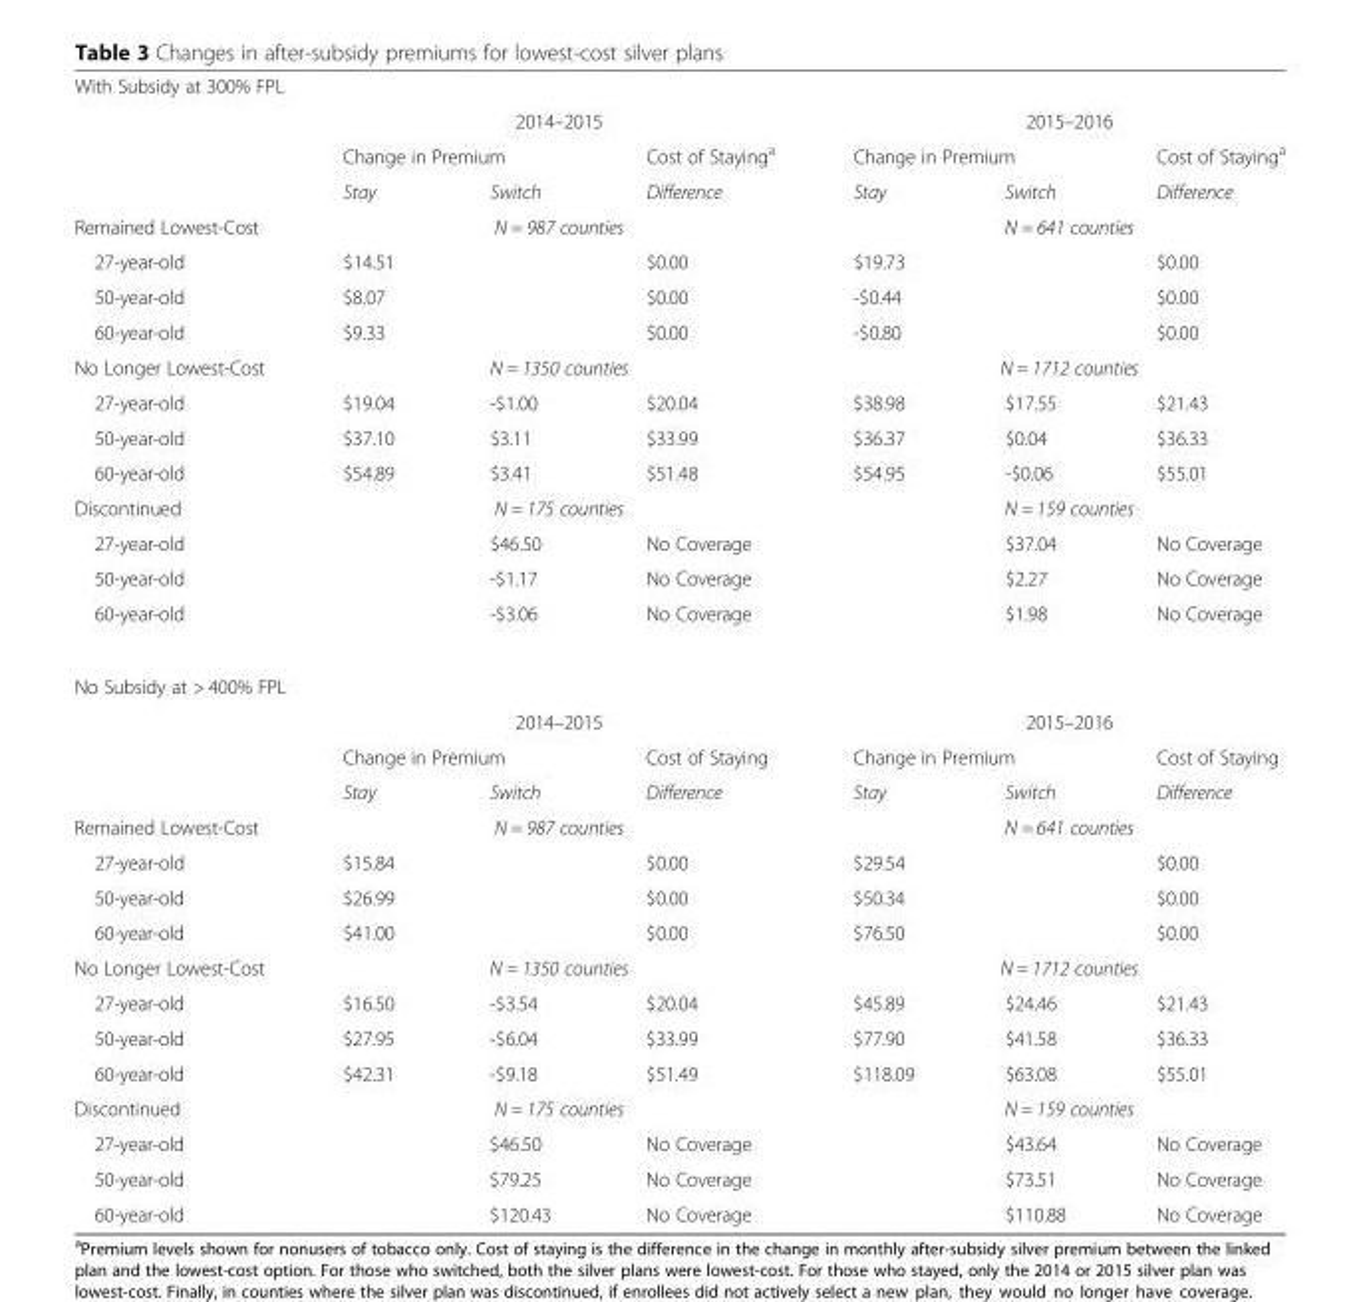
<table><tbody><tr><td colspan="7">With Subsidy at 300% FPL</td></tr><tr><td rowspan="3"></td><td colspan="3">2014–2015</td><td colspan="3">2015–2016</td></tr><tr><td colspan="2">Change in Premium</td><td>Cost of Staying<sup>a</sup></td><td colspan="2">Change in Premium</td><td>Cost of Staying<sup>a</sup></td></tr><tr><td>Stay</td><td>Switch</td><td>Difference</td><td>Stay</td><td>Switch</td><td>Difference</td></tr><tr><td>Remained Lowest-Cost</td><td colspan="3">N = 987 counties</td><td colspan="3">N = 641 counties</td></tr><tr><td>27-year-old</td><td>$14.51</td><td></td><td>$0.00</td><td>$19.73</td><td></td><td>$0.00</td></tr><tr><td>50-year-old</td><td>$8.07</td><td></td><td>$0.00</td><td>-$0.44</td><td></td><td>$0.00</td></tr><tr><td>60-year-old</td><td>$9.33</td><td></td><td>$0.00</td><td>-$0.80</td><td></td><td>$0.00</td></tr><tr><td>No Longer Lowest-Cost</td><td colspan="3">N = 1350 counties</td><td colspan="3">N = 1712 counties</td></tr><tr><td>27-year-old</td><td>$19.04</td><td>-$1.00</td><td>$20.04</td><td>$38.98</td><td>$17.55</td><td>$21.43</td></tr><tr><td>50-year-old</td><td>$37.10</td><td>$3.11</td><td>$33.99</td><td>$36.37</td><td>$0.04</td><td>$36.33</td></tr><tr><td>60-year-old</td><td>$54.89</td><td>$3.41</td><td>$51.48</td><td>$54.95</td><td>-$0.06</td><td>$55.01</td></tr><tr><td>Discontinued</td><td colspan="3">N = 175 counties</td><td colspan="3">N = 159 counties</td></tr><tr><td>27-year-old</td><td></td><td>$46.50</td><td>No Coverage</td><td></td><td>$37.04</td><td>No Coverage</td></tr><tr><td>50-year-old</td><td></td><td>-$1.17</td><td>No Coverage</td><td></td><td>$2.27</td><td>No Coverage</td></tr><tr><td>60-year-old</td><td></td><td>-$3.06</td><td>No Coverage</td><td></td><td>$1.98</td><td>No Coverage</td></tr><tr><td colspan="7">No Subsidy at &gt; 400% FPL</td></tr><tr><td rowspan="3"></td><td colspan="3">2014–2015</td><td colspan="3">2015–2016</td></tr><tr><td colspan="2">Change in Premium</td><td>Cost of Staying</td><td colspan="2">Change in Premium</td><td>Cost of Staying</td></tr><tr><td>Stay</td><td>Switch</td><td>Difference</td><td>Stay</td><td>Switch</td><td>Difference</td></tr><tr><td>Remained Lowest-Cost</td><td colspan="3">N = 987 counties</td><td colspan="3">N = 641 counties</td></tr><tr><td>27-year-old</td><td>$15.84</td><td></td><td>$0.00</td><td>$29.54</td><td></td><td>$0.00</td></tr><tr><td>50-year-old</td><td>$26.99</td><td></td><td>$0.00</td><td>$50.34</td><td></td><td>$0.00</td></tr><tr><td>60-year-old</td><td>$41.00</td><td></td><td>$0.00</td><td>$76.50</td><td></td><td>$0.00</td></tr><tr><td>No Longer Lowest-Cost</td><td colspan="3">N = 1350 counties</td><td colspan="3">N = 1712 counties</td></tr><tr><td>27-year-old</td><td>$16.50</td><td>-$3.54</td><td>$20.04</td><td>$45.89</td><td>$24.46</td><td>$21.43</td></tr><tr><td>50-year-old</td><td>$27.95</td><td>-$6.04</td><td>$33.99</td><td>$77.90</td><td>$41.58</td><td>$36.33</td></tr><tr><td>60-year-old</td><td>$42.31</td><td>-$9.18</td><td>$51.49</td><td>$118.09</td><td>$63.08</td><td>$55.01</td></tr><tr><td>Discontinued</td><td colspan="3">N = 175 counties</td><td colspan="3">N = 159 counties</td></tr><tr><td>27-year-old</td><td></td><td>$46.50</td><td>No Coverage</td><td></td><td>$43.64</td><td>No Coverage</td></tr><tr><td>50-year-old</td><td></td><td>$79.25</td><td>No Coverage</td><td></td><td>$73.51</td><td>No Coverage</td></tr><tr><td>60-year-old</td><td></td><td>$120.43</td><td>No Coverage</td><td></td><td>$110.88</td><td>No Coverage</td></tr></tbody></table>